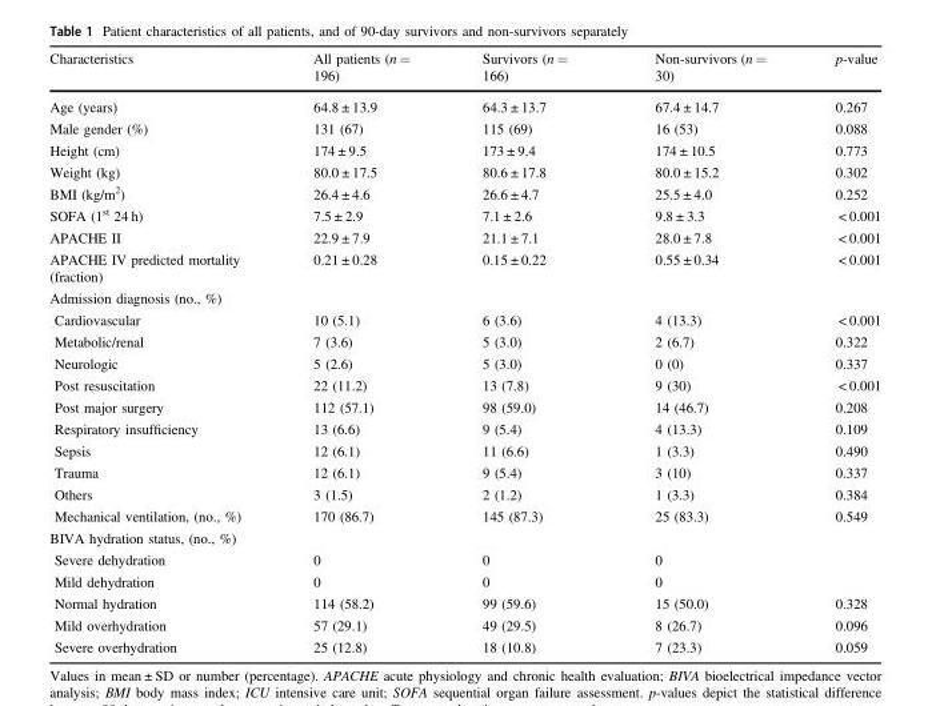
<table><thead><tr><td>Characteristics</td><td>All patients (n = 196)</td><td>Survivors (n = 166)</td><td>Non-survivors (n = 30)</td><td>p-value</td></tr></thead><tbody><tr><td>Age (years)</td><td>64.8 ± 13.9</td><td>64.3 ± 13.7</td><td>67.4 ± 14.7</td><td>0.267</td></tr><tr><td>Male gender (%)</td><td>131 (67)</td><td>115 (69)</td><td>16 (53)</td><td>0.088</td></tr><tr><td>Height (cm)</td><td>174 ± 9.5</td><td>173 ± 9.4</td><td>174 ± 10.5</td><td>0.773</td></tr><tr><td>Weight (kg)</td><td>80.0 ± 17.5</td><td>80.6 ± 17.8</td><td>80.0 ± 15.2</td><td>0.302</td></tr><tr><td>BMI (kg/m<sup>2</sup>)</td><td>26.4 ± 4.6</td><td>26.6 ± 4.7</td><td>25.5 ± 4.0</td><td>0.252</td></tr><tr><td>SOFA (1<sup>st</sup> 24 h)</td><td>7.5 ± 2.9</td><td>7.1 ± 2.6</td><td>9.8 ± 3.3</td><td>&lt; 0.001</td></tr><tr><td>APACHE II</td><td>22.9 ± 7.9</td><td>21.1 ± 7.1</td><td>28.0 ± 7.8</td><td>&lt; 0.001</td></tr><tr><td>APACHE IV predicted mortality (fraction)</td><td>0.21 ± 0.28</td><td>0.15 ± 0.22</td><td>0.55 ± 0.34</td><td>&lt; 0.001</td></tr><tr><td colspan="5">Admission diagnosis (no., %)</td></tr><tr><td>Cardiovascular</td><td>10 (5.1)</td><td>6 (3.6)</td><td>4 (13.3)</td><td>&lt; 0.001</td></tr><tr><td>Metabolic/renal</td><td>7 (3.6)</td><td>5 (3.0)</td><td>2 (6.7)</td><td>0.322</td></tr><tr><td>Neurologic</td><td>5 (2.6)</td><td>5 (3.0)</td><td>0 (0)</td><td>0.337</td></tr><tr><td>Post resuscitation</td><td>22 (11.2)</td><td>13 (7.8)</td><td>9 (30)</td><td>&lt; 0.001</td></tr><tr><td>Post major surgery</td><td>112 (57.1)</td><td>98 (59.0)</td><td>14 (46.7)</td><td>0.208</td></tr><tr><td>Respiratory insufficiency</td><td>13 (6.6)</td><td>9 (5.4)</td><td>4 (13.3)</td><td>0.109</td></tr><tr><td>Sepsis</td><td>12 (6.1)</td><td>11 (6.6)</td><td>1 (3.3)</td><td>0.490</td></tr><tr><td>Trauma</td><td>12 (6.1)</td><td>9 (5.4)</td><td>3 (10)</td><td>0.337</td></tr><tr><td>Others</td><td>3 (1.5)</td><td>2 (1.2)</td><td>1 (3.3)</td><td>0.384</td></tr><tr><td>Mechanical ventilation, (no., %)</td><td>170 (86.7)</td><td>145 (87.3)</td><td>25 (83.3)</td><td>0.549</td></tr><tr><td colspan="5">BIVA hydration status, (no., %)</td></tr><tr><td>Severe dehydration</td><td>0</td><td>0</td><td>0</td><td></td></tr><tr><td>Mild dehydration</td><td>0</td><td>0</td><td>0</td><td></td></tr><tr><td>Normal hydration</td><td>114 (58.2)</td><td>99 (59.6)</td><td>15 (50.0)</td><td>0.328</td></tr><tr><td>Mild overhydration</td><td>57 (29.1)</td><td>49 (29.5)</td><td>8 (26.7)</td><td>0.096</td></tr><tr><td>Severe overhydration</td><td>25 (12.8)</td><td>18 (10.8)</td><td>7 (23.3)</td><td>0.059</td></tr></tbody></table>